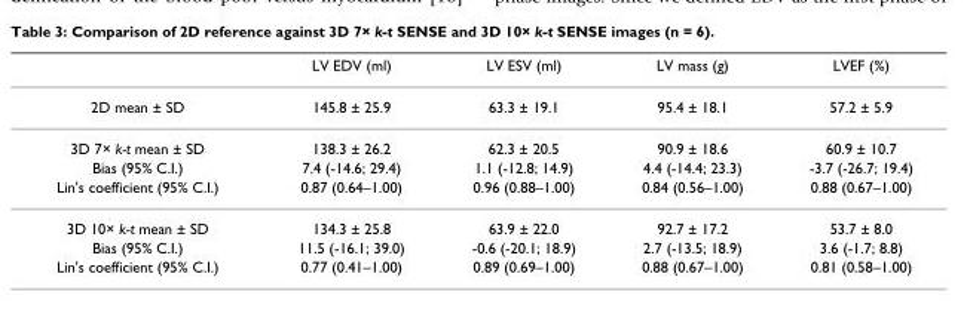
<table><thead><tr><td></td><td>LV EDV (ml)</td><td>LV ESV (ml)</td><td>LV mass (g)</td><td>LVEF (%)</td></tr></thead><tbody><tr><td>2D mean ± SD</td><td>145.8 ± 25.9</td><td>63.3 ± 19.1</td><td>95.4 ± 18.1</td><td>57.2 ± 5.9</td></tr><tr><td>3D 7× k-t mean ± SD</td><td>138.3 ± 26.2</td><td>62.3 ± 20.5</td><td>90.9 ± 18.6</td><td>60.9 ± 10.7</td></tr><tr><td>Bias (95% C.I.)</td><td>7.4 (-14.6; 29.4)</td><td>1.1 (-12.8; 14.9)</td><td>4.4 (-14.4; 23.3)</td><td>-3.7 (-26.7; 19.4)</td></tr><tr><td>Lin&#x27;s coefficient (95% C.I.)</td><td>0.87 (0.64–1.00)</td><td>0.96 (0.88–1.00)</td><td>0.84 (0.56–1.00)</td><td>0.88 (0.67–1.00)</td></tr><tr><td>3D 10× k-t mean ± SD</td><td>134.3 ± 25.8</td><td>63.9 ± 22.0</td><td>92.7 ± 17.2</td><td>53.7 ± 8.0</td></tr><tr><td>Bias (95% C.I.)</td><td>11.5 (-16.1; 39.0)</td><td>-0.6 (-20.1; 18.9)</td><td>2.7 (-13.5; 18.9)</td><td>3.6 (-1.7; 8.8)</td></tr><tr><td>Lin&#x27;s coefficient (95% C.I.)</td><td>0.77 (0.41–1.00)</td><td>0.89 (0.69–1.00)</td><td>0.88 (0.67–1.00)</td><td>0.81 (0.58–1.00)</td></tr></tbody></table>